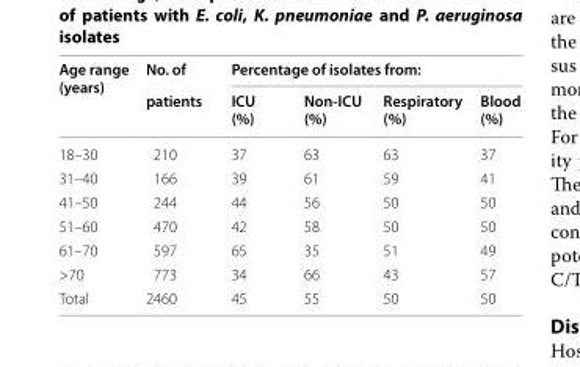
<table><thead><tr><td rowspan="2">Age range (years)</td><td rowspan="2">No. of patients</td><td colspan="4">Percentage of isolates from:</td></tr><tr><td>ICU (%)</td><td>Non-ICU (%)</td><td>Respiratory (%)</td><td>Blood (%)</td></tr></thead><tbody><tr><td>18–30</td><td>210</td><td>37</td><td>63</td><td>63</td><td>37</td></tr><tr><td>31–40</td><td>166</td><td>39</td><td>61</td><td>59</td><td>41</td></tr><tr><td>41–50</td><td>244</td><td>44</td><td>56</td><td>50</td><td>50</td></tr><tr><td>51–60</td><td>470</td><td>42</td><td>58</td><td>50</td><td>50</td></tr><tr><td>61–70</td><td>597</td><td>65</td><td>35</td><td>51</td><td>49</td></tr><tr><td>&gt;70</td><td>773</td><td>34</td><td>66</td><td>43</td><td>57</td></tr><tr><td>Total</td><td>2460</td><td>45</td><td>55</td><td>50</td><td>50</td></tr></tbody></table>